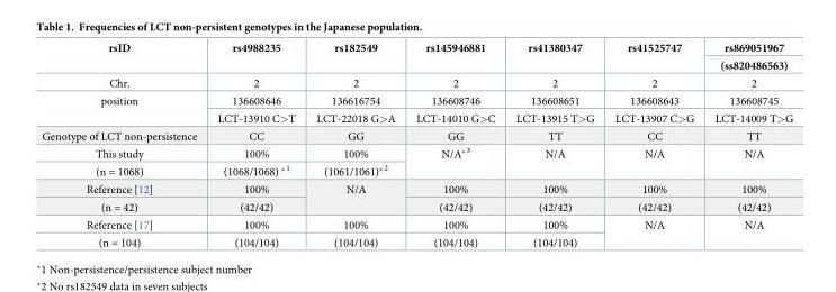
<table><thead><tr><td rowspan="2">rsID</td><td rowspan="2">rs4988235</td><td rowspan="2">rs182549</td><td rowspan="2">rs145946881</td><td rowspan="2">rs41380347</td><td rowspan="2">rs41525747</td><td rowspan="2">rs869051967 (ss820486563)</td></tr><tr></tr></thead><tbody><tr><td>Chr.</td><td>2</td><td>2</td><td>2</td><td>2</td><td>2</td><td>2</td></tr><tr><td rowspan="2">position</td><td>136608646</td><td>136616754</td><td>136608746</td><td>136608651</td><td>136608643</td><td>136608745</td></tr><tr><td>LCT-13910 C&gt;T</td><td>LCT-22018 G&gt;A</td><td>LCT-14010 G&gt;C</td><td>LCT-13915 T&gt;G</td><td>LCT-13907 C&gt;G</td><td>LCT-14009 T&gt;G</td></tr><tr><td>Genotype of LCT non-persistence</td><td>CC</td><td>GG</td><td>GG</td><td>TT</td><td>CC</td><td>TT</td></tr><tr><td>This study</td><td>100%</td><td>100%</td><td rowspan="2">N/A*<sup>3</sup></td><td rowspan="2">N/A</td><td rowspan="2">N/A</td><td rowspan="2">N/A</td></tr><tr><td>(n = 1068)</td><td>(1068/1068) *<sup>1</sup></td><td>(1061/1061)*<sup>2</sup></td></tr><tr><td>Reference [12]</td><td>100%</td><td rowspan="2">N/A</td><td>100%</td><td>100%</td><td>100%</td><td>100%</td></tr><tr><td>(n = 42)</td><td>(42/42)</td><td>(42/42)</td><td>(42/42)</td><td>(42/42)</td><td>(42/42)</td></tr><tr><td>Reference [17]</td><td>100%</td><td>100%</td><td>100%</td><td>100%</td><td rowspan="2">N/A</td><td rowspan="2">N/A</td></tr><tr><td>(n = 104)</td><td>(104/104)</td><td>(104/104)</td><td>(104/104)</td><td>(104/104)</td></tr></tbody></table>